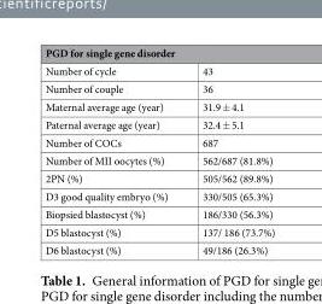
<table><thead><tr><td colspan="2">PGD for single gene disorder</td></tr><tr><td>Number of cycle</td><td>43</td></tr></thead><tbody><tr><td>Number of couple</td><td>36</td></tr><tr><td>Maternal average age (year)</td><td>31.9 ± 4.1</td></tr><tr><td>Paternal average age (year)</td><td>32.4 ± 5.1</td></tr><tr><td>Number of COCs</td><td>687</td></tr><tr><td>Number of MII oocytes (%)</td><td>562/687 (81.8%)</td></tr><tr><td>2PN (%)</td><td>505/562 (89.8%)</td></tr><tr><td>D3 good quality embryo (%)</td><td>330/505 (65.3%)</td></tr><tr><td>Biopsied blastocyst (%)</td><td>186/330 (56.3%)</td></tr><tr><td>D5 blastocyst (%)</td><td>137/ 186 (73.7%)</td></tr><tr><td>D6 blastocyst (%)</td><td>49/186 (26.3%)</td></tr></tbody></table>